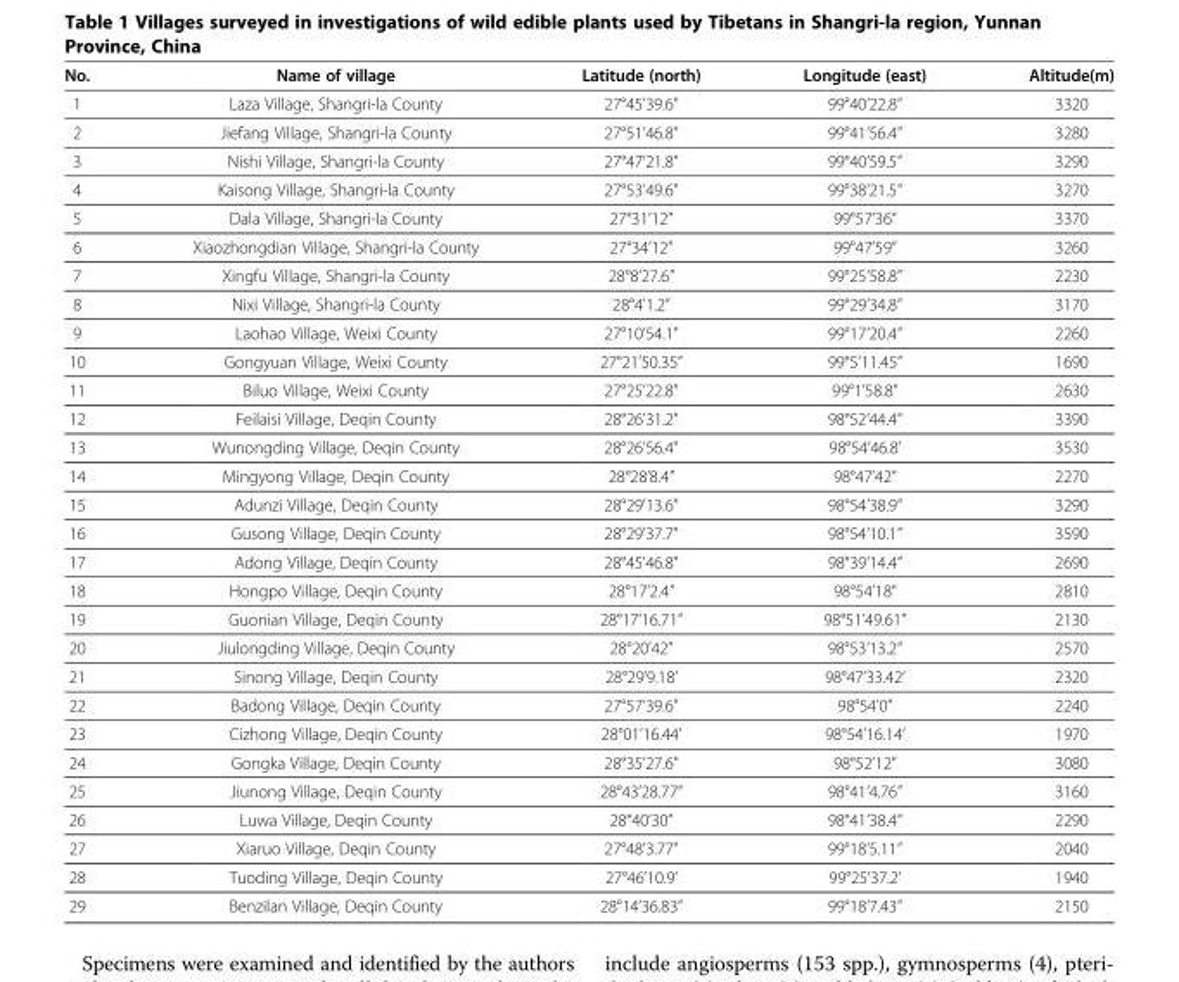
<table><thead><tr><td>No.</td><td>Name of village</td><td>Latitude (north)</td><td>Longitude (east)</td><td>Altitude(m)</td></tr></thead><tbody><tr><td>1</td><td>Laza Village, Shangri-la County</td><td>27°45’39.6”</td><td>99°40’22.8”</td><td>3320</td></tr><tr><td>2</td><td>Jiefang Village, Shangri-la County</td><td>27°51’46.8”</td><td>99°41’56.4”</td><td>3280</td></tr><tr><td>3</td><td>Nishi Village, Shangri-la County</td><td>27°47’21.8”</td><td>99°40’59.5”</td><td>3290</td></tr><tr><td>4</td><td>Kaisong Village, Shangri-la County</td><td>27°53’49.6”</td><td>99°38’21.5”</td><td>3270</td></tr><tr><td>5</td><td>Dala Village, Shangri-la County</td><td>27°31’12”</td><td>99°57’36”</td><td>3370</td></tr><tr><td>6</td><td>Xiaozhongdian Village, Shangri-la County</td><td>27°34’12”</td><td>99°47’59”</td><td>3260</td></tr><tr><td>7</td><td>Xingfu Village, Shangri-la County</td><td>28°8’27.6”</td><td>99°25’58.8”</td><td>2230</td></tr><tr><td>8</td><td>Nixi Village, Shangri-la County</td><td>28°4’1.2”</td><td>99°29’34.8”</td><td>3170</td></tr><tr><td>9</td><td>Laohao Village, Weixi County</td><td>27°10’54.1”</td><td>99°17’20.4”</td><td>2260</td></tr><tr><td>10</td><td>Gongyuan Village, Weixi County</td><td>27°21’50.35”</td><td>99°5’11.45”</td><td>1690</td></tr><tr><td>11</td><td>Biluo Village, Weixi County</td><td>27°25’22.8”</td><td>99°1’58.8”</td><td>2630</td></tr><tr><td>12</td><td>Feilaisi Village, Deqin County</td><td>28°26’31.2”</td><td>98°52’44.4”</td><td>3390</td></tr><tr><td>13</td><td>Wunongding Village, Deqin County</td><td>28°26’56.4”</td><td>98°54’46.8’</td><td>3530</td></tr><tr><td>14</td><td>Mingyong Village, Deqin County</td><td>28°28’8.4”</td><td>98°47’42”</td><td>2270</td></tr><tr><td>15</td><td>Adunzi Village, Deqin County</td><td>28°29’13.6”</td><td>98°54’38.9”</td><td>3290</td></tr><tr><td>16</td><td>Gusong Village, Deqin County</td><td>28°29’37.7”</td><td>98°54’10.1”</td><td>3590</td></tr><tr><td>17</td><td>Adong Village, Deqin County</td><td>28°45’46.8”</td><td>98°39’14.4”</td><td>2690</td></tr><tr><td>18</td><td>Hongpo Village, Deqin County</td><td>28°17’2.4”</td><td>98°54’18”</td><td>2810</td></tr><tr><td>19</td><td>Guonian Village, Deqin County</td><td>28°17’16.71”</td><td>98°51’49.61”</td><td>2130</td></tr><tr><td>20</td><td>Jiulongding Village, Deqin County</td><td>28°20’42”</td><td>98°53’13.2”</td><td>2570</td></tr><tr><td>21</td><td>Sinong Village, Deqin County</td><td>28°29’9.18’</td><td>98°47’33.42’</td><td>2320</td></tr><tr><td>22</td><td>Badong Village, Deqin County</td><td>27°57’39.6”</td><td>98°54’0”</td><td>2240</td></tr><tr><td>23</td><td>Cizhong Village, Deqin County</td><td>28°01’16.44’</td><td>98°54’16.14’</td><td>1970</td></tr><tr><td>24</td><td>Gongka Village, Deqin County</td><td>28°35’27.6”</td><td>98°52’12”</td><td>3080</td></tr><tr><td>25</td><td>Jiunong Village, Deqin County</td><td>28°43’28.77”</td><td>98°41’4.76”</td><td>3160</td></tr><tr><td>26</td><td>Luwa Village, Deqin County</td><td>28°40’30”</td><td>98°41’38.4”</td><td>2290</td></tr><tr><td>27</td><td>Xiaruo Village, Deqin County</td><td>27°48’3.77”</td><td>99°18’5.11”</td><td>2040</td></tr><tr><td>28</td><td>Tuoding Village, Deqin County</td><td>27°46’10.9’</td><td>99°25’37.2’</td><td>1940</td></tr><tr><td>29</td><td>Benzilan Village, Deqin County</td><td>28°14’36.83”</td><td>99°18’7.43”</td><td>2150</td></tr></tbody></table>